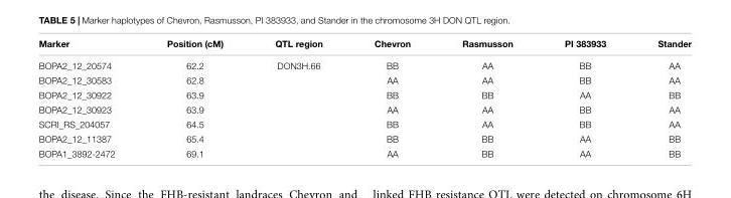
<table><thead><tr><td>Marker</td><td>Position (cM)</td><td>QTL region</td><td>Chevron</td><td>Rasmusson</td><td>PI 383933</td><td>Stander</td></tr></thead><tbody><tr><td>BOPA2_12_20574</td><td>62.2</td><td>DON3H.66</td><td>BB</td><td>AA</td><td>BB</td><td>AA</td></tr><tr><td>BOPA2_12_30583</td><td>62.8</td><td></td><td>AA</td><td>AA</td><td>BB</td><td>AA</td></tr><tr><td>BOPA2_12_30922</td><td>63.9</td><td></td><td>BB</td><td>BB</td><td>AA</td><td>BB</td></tr><tr><td>BOPA2_12_30923</td><td>63.9</td><td></td><td>AA</td><td>AA</td><td>BB</td><td>AA</td></tr><tr><td>SCRI_RS_204057</td><td>64.5</td><td></td><td>BB</td><td>AA</td><td>BB</td><td>AA</td></tr><tr><td>BOPA2_12_11387</td><td>65.4</td><td></td><td>BB</td><td>BB</td><td>AA</td><td>BB</td></tr><tr><td>BOPA1_3892-2472</td><td>69.1</td><td></td><td>AA</td><td>BB</td><td>AA</td><td>BB</td></tr></tbody></table>